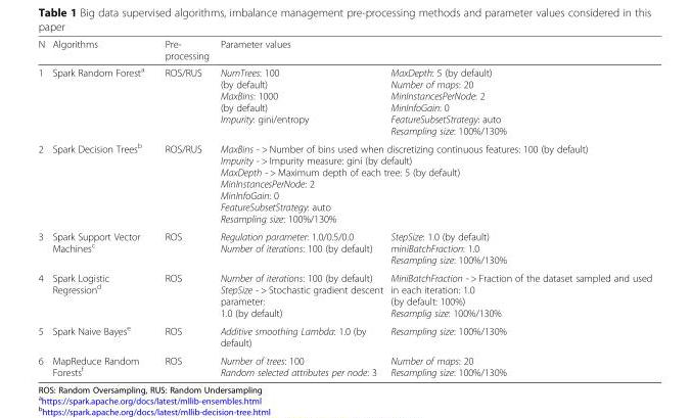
<table><thead><tr><td rowspan="2">N 1</td><td rowspan="2">Algorithms Spark Random Forest<sup>a</sup></td><td rowspan="2">Pre- processing ROS/RUS</td><td colspan="2">Parameter values</td></tr><tr><td>NumTrees: 100 (by default) MaxBins: 1000 (by default) Impurity: gini/entropy</td><td>MaxDepth: 5 (by default) Number of maps: 20 MinInstancesPerNode: 2 MinInfoGain: 0 FeatureSubsetStrategy: auto Resampling size: 100%/130%</td></tr></thead><tbody><tr><td>2</td><td>Spark Decision Trees<sup>b</sup></td><td>ROS/RUS</td><td colspan="2">MaxBins - &gt; Number of bins used when discretizing continuous features: 100 (by default) Impurity - &gt; Impurity measure: gini (by default) MaxDepth - &gt; Maximum depth of each tree: 5 (by default) MinInstancesPerNode: 2 MinInfoGain: 0 FeatureSubsetStrategy: auto Resampling size: 100%/130%</td></tr><tr><td>3</td><td>Spark Support Vector Machines<sup>c</sup></td><td>ROS</td><td>Regulation parameter: 1.0/0.5/0.0 Number of iterations: 100 (by default)</td><td>StepSize: 1.0 (by default) miniBatchFraction: 1.0 Resampling size: 100%/130%</td></tr><tr><td>4</td><td>Spark Logistic Regression<sup>d</sup></td><td>ROS</td><td>Number of iterations: 100 (by default) StepSize - &gt; Stochastic gradient descent parameter: 1.0 (by default)</td><td>MiniBatchFraction - &gt; Fraction of the dataset sampled and used in each iteration: 1.0 (by default: 100%) Resamplig size: 100%/130%</td></tr><tr><td>5</td><td>Spark Naive Bayes<sup>e</sup></td><td>ROS</td><td>Additive smoothing Lambda: 1.0 (by default)</td><td>Resampling size: 100%/130%</td></tr><tr><td>6</td><td>MapReduce Random Forests<sup>f</sup></td><td>ROS</td><td>Number of trees: 100 Random selected attributes per node: 3</td><td>Number of maps: 20 Resampling size: 100%/130%</td></tr></tbody></table>